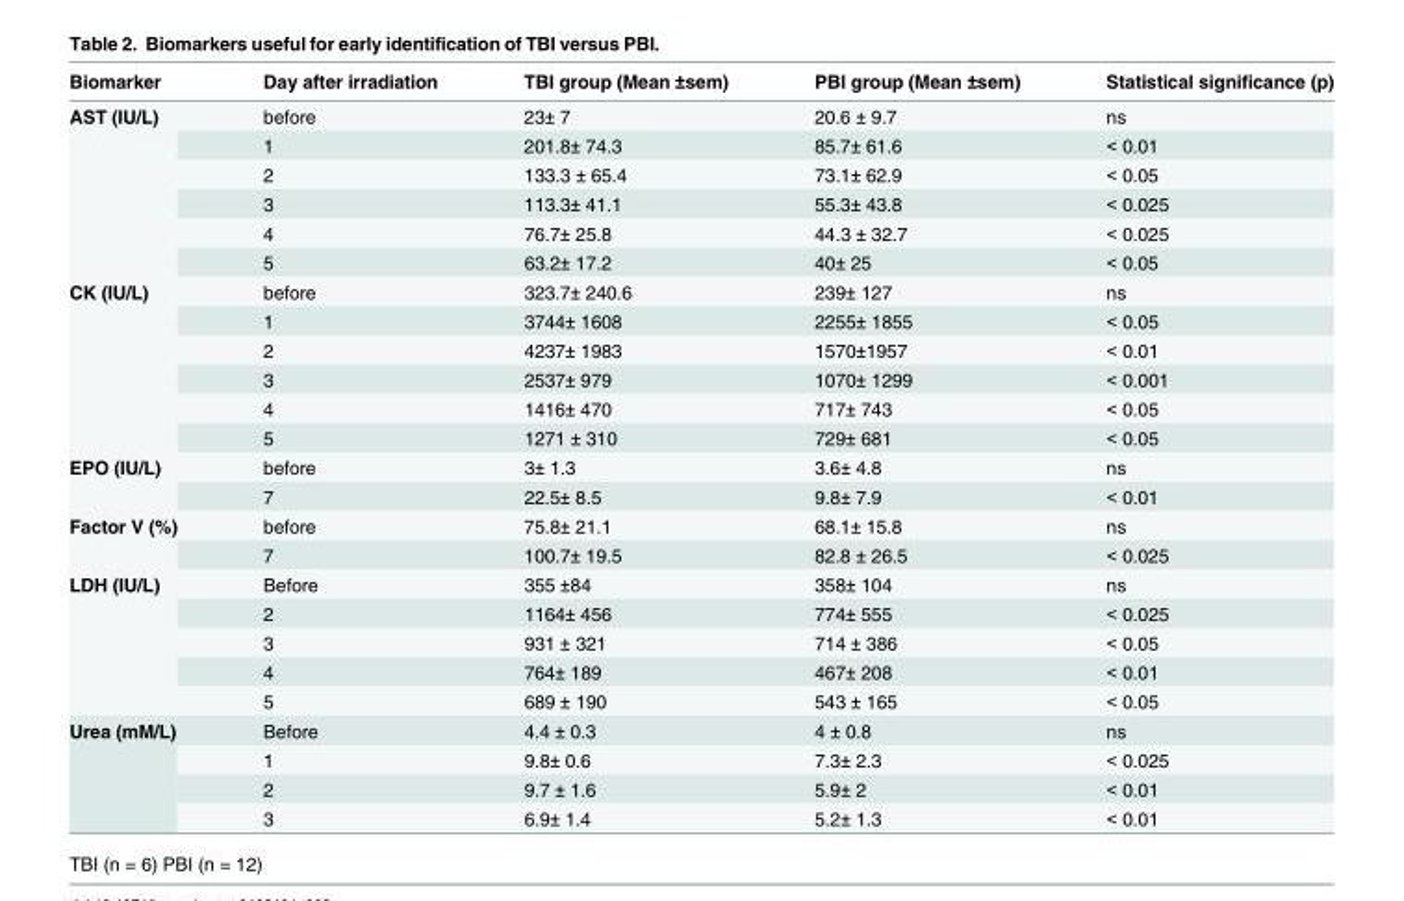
<table><thead><tr><td>Biomarker</td><td>Day after irradiation</td><td>TBI group (Mean ±sem)</td><td>PBI group (Mean ±sem)</td><td>Statistical significance (p)</td></tr></thead><tbody><tr><td rowspan="6">AST (IU/L)</td><td>before</td><td>23± 7</td><td>20.6 ± 9.7</td><td>ns</td></tr><tr><td>1</td><td>201.8± 74.3</td><td>85.7± 61.6</td><td>&lt; 0.01</td></tr><tr><td>2</td><td>133.3 ± 65.4</td><td>73.1± 62.9</td><td>&lt; 0.05</td></tr><tr><td>3</td><td>113.3± 41.1</td><td>55.3± 43.8</td><td>&lt; 0.025</td></tr><tr><td>4</td><td>76.7± 25.8</td><td>44.3 ± 32.7</td><td>&lt; 0.025</td></tr><tr><td>5</td><td>63.2± 17.2</td><td>40± 25</td><td>&lt; 0.05</td></tr><tr><td rowspan="6">CK (IU/L)</td><td>before</td><td>323.7± 240.6</td><td>239± 127</td><td>ns</td></tr><tr><td>1</td><td>3744± 1608</td><td>2255± 1855</td><td>&lt; 0.05</td></tr><tr><td>2</td><td>4237± 1983</td><td>1570±1957</td><td>&lt; 0.01</td></tr><tr><td>3</td><td>2537± 979</td><td>1070± 1299</td><td>&lt; 0.001</td></tr><tr><td>4</td><td>1416± 470</td><td>717± 743</td><td>&lt; 0.05</td></tr><tr><td>5</td><td>1271 ± 310</td><td>729± 681</td><td>&lt; 0.05</td></tr><tr><td rowspan="2">EPO (IU/L)</td><td>before</td><td>3± 1.3</td><td>3.6± 4.8</td><td>ns</td></tr><tr><td>7</td><td>22.5± 8.5</td><td>9.8± 7.9</td><td>&lt; 0.01</td></tr><tr><td rowspan="2">Factor V (%)</td><td>before</td><td>75.8± 21.1</td><td>68.1± 15.8</td><td>ns</td></tr><tr><td>7</td><td>100.7± 19.5</td><td>82.8 ± 26.5</td><td>&lt; 0.025</td></tr><tr><td rowspan="5">LDH (IU/L)</td><td>Before</td><td>355 ±84</td><td>358± 104</td><td>ns</td></tr><tr><td>2</td><td>1164± 456</td><td>774± 555</td><td>&lt; 0.025</td></tr><tr><td>3</td><td>931 ± 321</td><td>714 ± 386</td><td>&lt; 0.05</td></tr><tr><td>4</td><td>764± 189</td><td>467± 208</td><td>&lt; 0.01</td></tr><tr><td>5</td><td>689 ± 190</td><td>543 ± 165</td><td>&lt; 0.05</td></tr><tr><td rowspan="4">Urea (mM/L)</td><td>Before</td><td>4.4 ± 0.3</td><td>4 ± 0.8</td><td>ns</td></tr><tr><td>1</td><td>9.8± 0.6</td><td>7.3± 2.3</td><td>&lt; 0.025</td></tr><tr><td>2</td><td>9.7 ± 1.6</td><td>5.9± 2</td><td>&lt; 0.01</td></tr><tr><td>3</td><td>6.9± 1.4</td><td>5.2± 1.3</td><td>&lt; 0.01</td></tr></tbody></table>